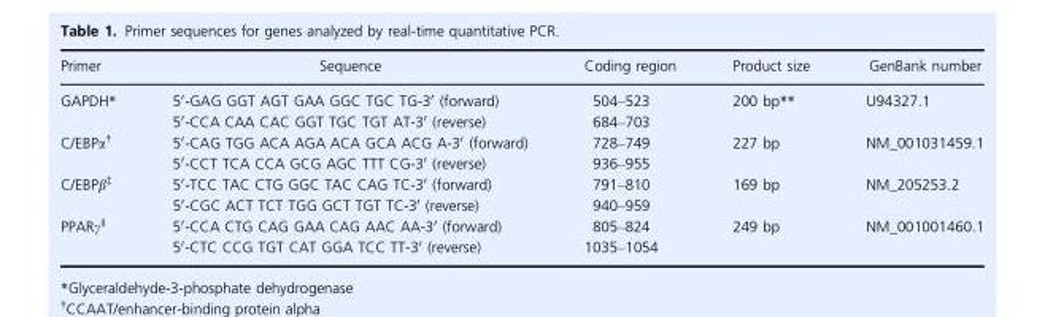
<table><thead><tr><td>Primer</td><td>Sequence</td><td>Coding region</td><td>Product size</td><td>GenBank number</td></tr></thead><tbody><tr><td rowspan="2">GAPDH*</td><td>5′-GAG GGT AGT GAA GGC TGC TG-3′ (forward)</td><td>504–523</td><td rowspan="2">200 bp**</td><td rowspan="2">U94327.1</td></tr><tr><td>5′-CCA CAA CAC GGT TGC TGT AT-3′ (reverse)</td><td>684–703</td></tr><tr><td rowspan="2">C/EBPα†</td><td>5′-CAG TGG ACA AGA ACA GCA ACG A-3′ (forward)</td><td>728–749</td><td rowspan="2">227 bp</td><td rowspan="2">NM_001031459.1</td></tr><tr><td>5′-CCT TCA CCA GCG AGC TTT CG-3′ (reverse)</td><td>936–955</td></tr><tr><td rowspan="2">C/EBPβ‡</td><td>5′-TCC TAC CTG GGC TAC CAG TC-3′ (forward)</td><td>791–810</td><td rowspan="2">169 bp</td><td rowspan="2">NM_205253.2</td></tr><tr><td>5′-CGC ACT TCT TGG GCT TGT TC-3′ (reverse)</td><td>940–959</td></tr><tr><td rowspan="2">PPARγ§</td><td>5′-CCA CTG CAG GAA CAG AAC AA-3′ (forward)</td><td>805–824</td><td rowspan="2">249 bp</td><td rowspan="2">NM_001001460.1</td></tr><tr><td>5′-CTC CCG TGT CAT GGA TCC TT-3′ (reverse)</td><td>1035–1054</td></tr></tbody></table>